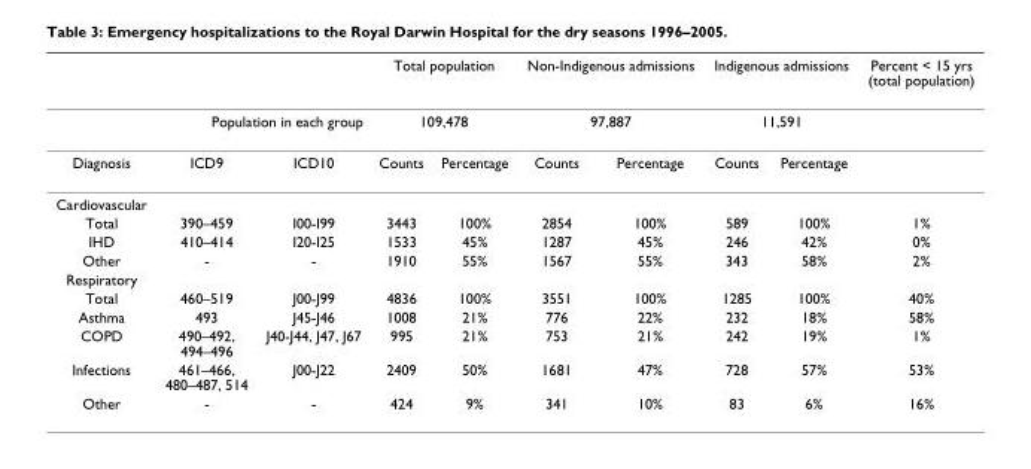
<table><thead><tr><td></td><td></td><td></td><td rowspan="2" colspan="2">Total population 109,478</td><td rowspan="2" colspan="2">Non-Indigenous admissions 97,887</td><td rowspan="2" colspan="2">Indigenous admissions 11,591</td><td rowspan="3">Percent &lt; 15 yrs (total population)</td></tr><tr><td colspan="3">Population in each group</td></tr><tr><td>Diagnosis</td><td>ICD9</td><td>ICD10</td><td>Counts</td><td>Percentage</td><td>Counts</td><td>Percentage</td><td>Counts</td><td>Percentage</td></tr></thead><tbody><tr><td colspan="10">Cardiovascular</td></tr><tr><td>Total</td><td>390–459</td><td>I00-I99</td><td>3443</td><td>100%</td><td>2854</td><td>100%</td><td>589</td><td>100%</td><td>1%</td></tr><tr><td>IHD</td><td>410–414</td><td>I20-I25</td><td>1533</td><td>45%</td><td>1287</td><td>45%</td><td>246</td><td>42%</td><td>0%</td></tr><tr><td>Other</td><td>-</td><td>-</td><td>1910</td><td>55%</td><td>1567</td><td>55%</td><td>343</td><td>58%</td><td>2%</td></tr><tr><td colspan="10">Respiratory</td></tr><tr><td>Total</td><td>460–519</td><td>J00-J99</td><td>4836</td><td>100%</td><td>3551</td><td>100%</td><td>1285</td><td>100%</td><td>40%</td></tr><tr><td>Asthma</td><td>493</td><td>J45-J46</td><td>1008</td><td>21%</td><td>776</td><td>22%</td><td>232</td><td>18%</td><td>58%</td></tr><tr><td>COPD</td><td>490–492, 494–496</td><td>J40-J44, J47, J67</td><td>995</td><td>21%</td><td>753</td><td>21%</td><td>242</td><td>19%</td><td>1%</td></tr><tr><td>Infections</td><td>461–466, 480–487, 514</td><td>J00-J22</td><td>2409</td><td>50%</td><td>1681</td><td>47%</td><td>728</td><td>57%</td><td>53%</td></tr><tr><td>Other</td><td>-</td><td>-</td><td>424</td><td>9%</td><td>341</td><td>10%</td><td>83</td><td>6%</td><td>16%</td></tr></tbody></table>